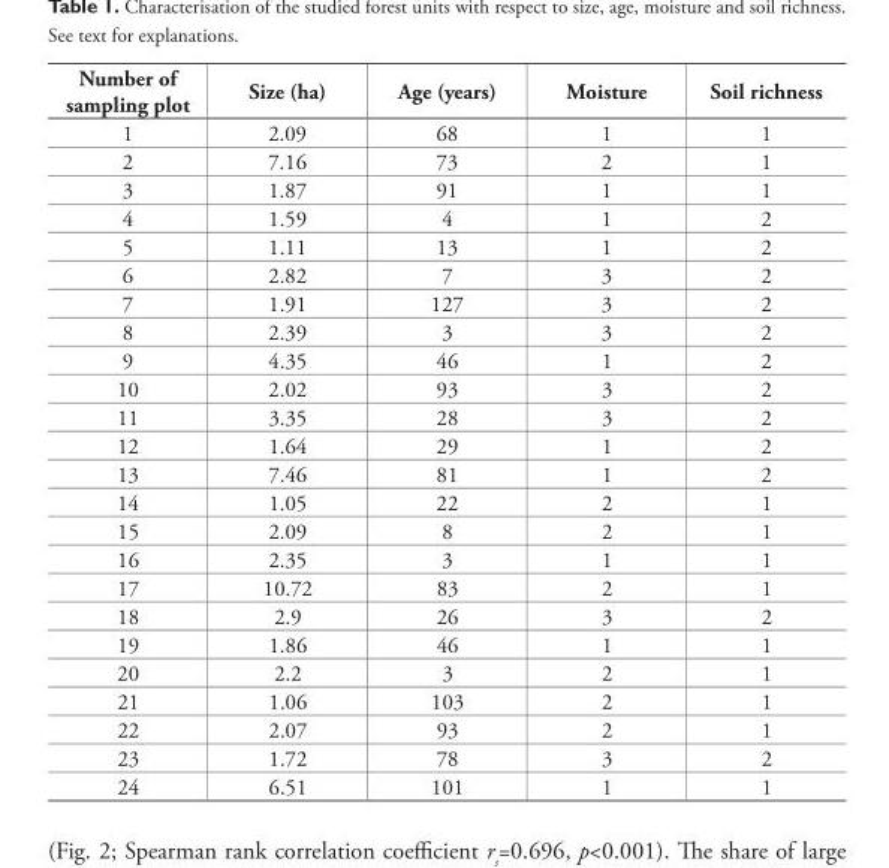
<table><thead><tr><td>Number of sampling plot</td><td>Size (ha)</td><td>Age (years)</td><td>Moisture</td><td>Soil richness</td></tr></thead><tbody><tr><td>1</td><td>2.09</td><td>68</td><td>1</td><td>1</td></tr><tr><td>2</td><td>7.16</td><td>73</td><td>2</td><td>1</td></tr><tr><td>3</td><td>1.87</td><td>91</td><td>1</td><td>1</td></tr><tr><td>4</td><td>1.59</td><td>4</td><td>1</td><td>2</td></tr><tr><td>5</td><td>1.11</td><td>13</td><td>1</td><td>2</td></tr><tr><td>6</td><td>2.82</td><td>7</td><td>3</td><td>2</td></tr><tr><td>7</td><td>1.91</td><td>127</td><td>3</td><td>2</td></tr><tr><td>8</td><td>2.39</td><td>3</td><td>3</td><td>2</td></tr><tr><td>9</td><td>4.35</td><td>46</td><td>1</td><td>2</td></tr><tr><td>10</td><td>2.02</td><td>93</td><td>3</td><td>2</td></tr><tr><td>11</td><td>3.35</td><td>28</td><td>3</td><td>2</td></tr><tr><td>12</td><td>1.64</td><td>29</td><td>1</td><td>2</td></tr><tr><td>13</td><td>7.46</td><td>81</td><td>1</td><td>2</td></tr><tr><td>14</td><td>1.05</td><td>22</td><td>2</td><td>1</td></tr><tr><td>15</td><td>2.09</td><td>8</td><td>2</td><td>1</td></tr><tr><td>16</td><td>2.35</td><td>3</td><td>1</td><td>1</td></tr><tr><td>17</td><td>10.72</td><td>83</td><td>2</td><td>1</td></tr><tr><td>18</td><td>2.9</td><td>26</td><td>3</td><td>2</td></tr><tr><td>19</td><td>1.86</td><td>46</td><td>1</td><td>1</td></tr><tr><td>20</td><td>2.2</td><td>3</td><td>2</td><td>1</td></tr><tr><td>21</td><td>1.06</td><td>103</td><td>2</td><td>1</td></tr><tr><td>22</td><td>2.07</td><td>93</td><td>2</td><td>1</td></tr><tr><td>23</td><td>1.72</td><td>78</td><td>3</td><td>2</td></tr><tr><td>24</td><td>6.51</td><td>101</td><td>1</td><td>1</td></tr></tbody></table>